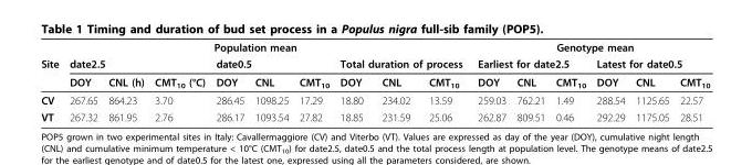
<table><thead><tr><td colspan="10">Population mean</td><td colspan="6">Genotype mean</td></tr><tr><td rowspan="2">Site</td><td colspan="3">date2.5</td><td colspan="3">date0.5</td><td colspan="3">Total duration of process</td><td colspan="3">Earliest for date2.5</td><td colspan="3">Latest for date0.5</td></tr><tr><td>DOY</td><td>CNL (h)</td><td>CMT<sub>10</sub> (°C)</td><td>DOY</td><td>CNL</td><td>CMT<sub>10</sub></td><td>DOY</td><td>CNL</td><td>CMT<sub>10</sub></td><td>DOY</td><td>CNL</td><td>CMT<sub>10</sub></td><td>DOY</td><td>CNL</td><td>CMT<sub>10</sub></td></tr></thead><tbody><tr><td>CV</td><td>267.65</td><td>864.23</td><td>3.70</td><td>286.45</td><td>1098.25</td><td>17.29</td><td>18.80</td><td>234.02</td><td>13.59</td><td>259.03</td><td>762.21</td><td>1.49</td><td>288.54</td><td>1125.65</td><td>22.57</td></tr><tr><td>VT</td><td>267.32</td><td>861.95</td><td>2.76</td><td>286.17</td><td>1093.54</td><td>27.82</td><td>18.85</td><td>231.59</td><td>25.06</td><td>262.87</td><td>809.51</td><td>0.46</td><td>292.29</td><td>1175.05</td><td>28.51</td></tr></tbody></table>